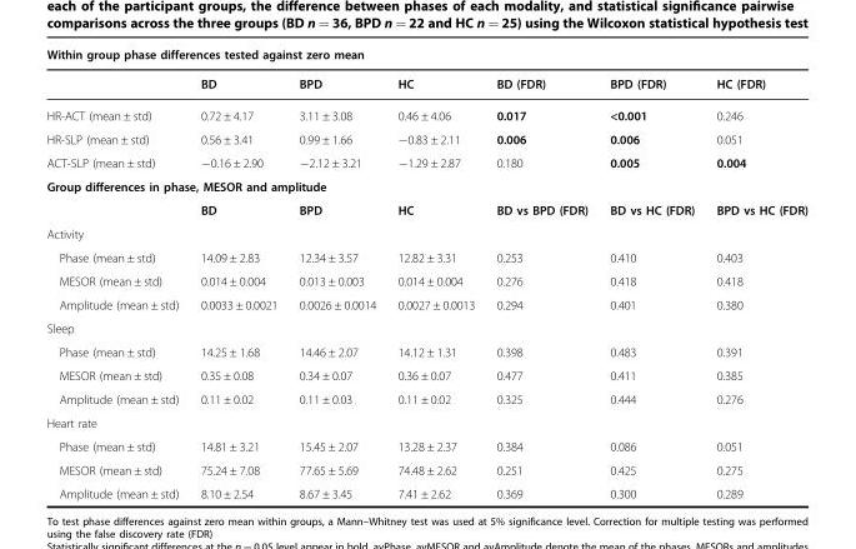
<table><thead><tr><td colspan="7">Within group phase differences tested against zero mean</td></tr><tr><td></td><td>BD</td><td>BPD</td><td>HC</td><td>BD (FDR)</td><td>BPD (FDR)</td><td>HC (FDR)</td></tr></thead><tbody><tr><td>HR-ACT (mean ± std)</td><td>0.72 ± 4.17</td><td>3.11 ± 3.08</td><td>0.46 ± 4.06</td><td>0.017</td><td>&lt;0.001</td><td>0.246</td></tr><tr><td>HR-SLP (mean ± std)</td><td>0.56 ± 3.41</td><td>0.99 ± 1.66</td><td>−0.83 ± 2.11</td><td>0.006</td><td>0.006</td><td>0.051</td></tr><tr><td>ACT-SLP (mean ± std)</td><td>−0.16 ± 2.90</td><td>−2.12 ± 3.21</td><td>−1.29 ± 2.87</td><td>0.180</td><td>0.005</td><td>0.004</td></tr><tr><td colspan="7">Group differences in phase, MESOR and amplitude</td></tr><tr><td></td><td>BD</td><td>BPD</td><td>HC</td><td>BD vs BPD (FDR)</td><td>BD vs HC (FDR)</td><td>BPD vs HC (FDR)</td></tr><tr><td colspan="7">Activity</td></tr><tr><td>Phase (mean ± std)</td><td>14.09 ± 2.83</td><td>12.34 ± 3.57</td><td>12.82 ± 3.31</td><td>0.253</td><td>0.410</td><td>0.403</td></tr><tr><td>MESOR (mean ± std)</td><td>0.014 ± 0.004</td><td>0.013 ± 0.003</td><td>0.014 ± 0.004</td><td>0.276</td><td>0.418</td><td>0.418</td></tr><tr><td>Amplitude (mean ± std)</td><td>0.0033 ± 0.0021</td><td>0.0026 ± 0.0014</td><td>0.0027 ± 0.0013</td><td>0.294</td><td>0.401</td><td>0.380</td></tr><tr><td colspan="7">Sleep</td></tr><tr><td>Phase (mean ± std)</td><td>14.25 ± 1.68</td><td>14.46 ± 2.07</td><td>14.12 ± 1.31</td><td>0.398</td><td>0.483</td><td>0.391</td></tr><tr><td>MESOR (mean ± std)</td><td>0.35 ± 0.08</td><td>0.34 ± 0.07</td><td>0.36 ± 0.07</td><td>0.477</td><td>0.411</td><td>0.385</td></tr><tr><td>Amplitude (mean ± std)</td><td>0.11 ± 0.02</td><td>0.11 ± 0.03</td><td>0.11 ± 0.02</td><td>0.325</td><td>0.444</td><td>0.276</td></tr><tr><td colspan="7">Heart rate</td></tr><tr><td>Phase (mean ± std)</td><td>14.81 ± 3.21</td><td>15.45 ± 2.07</td><td>13.28 ± 2.37</td><td>0.384</td><td>0.086</td><td>0.051</td></tr><tr><td>MESOR (mean ± std)</td><td>75.24 ± 7.08</td><td>77.65 ± 5.69</td><td>74.48 ± 2.62</td><td>0.251</td><td>0.425</td><td>0.275</td></tr><tr><td>Amplitude (mean ± std)</td><td>8.10 ± 2.54</td><td>8.67 ± 3.45</td><td>7.41 ± 2.62</td><td>0.369</td><td>0.300</td><td>0.289</td></tr></tbody></table>